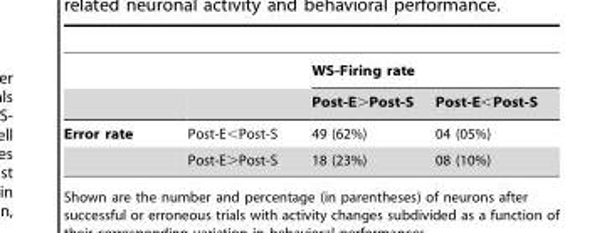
<table><thead><tr><td rowspan="2"></td><td rowspan="2"></td><td colspan="2">WS-Firing rate</td></tr><tr><td>Post-E&gt;Post-S</td><td>Post-E&lt;Post-S</td></tr></thead><tbody><tr><td rowspan="2">Error rate</td><td>Post-E&lt;Post-S</td><td>49 (62%)</td><td>04 (05%)</td></tr><tr><td>Post-E&gt;Post-S</td><td>18 (23%)</td><td>08 (10%)</td></tr></tbody></table>